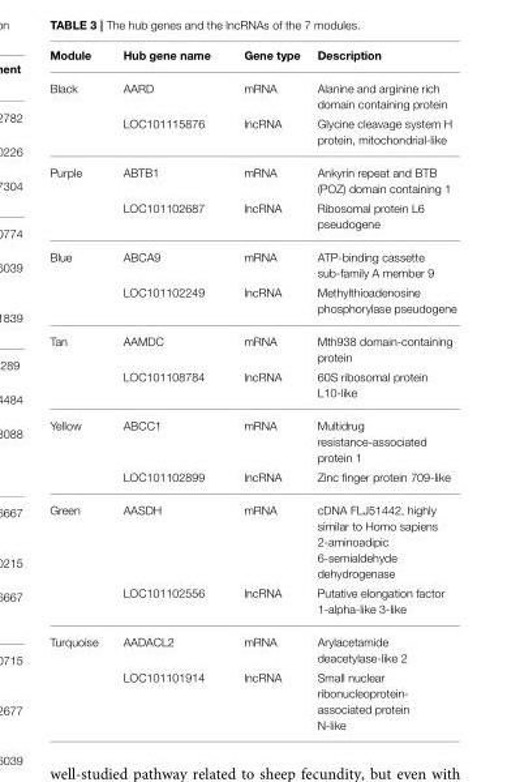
<table><thead><tr><td>Module</td><td>Hub gene name</td><td>Gene type</td><td>Description</td></tr></thead><tbody><tr><td rowspan="2">Black</td><td>AARD</td><td>mRNA</td><td>Alanine and arginine rich domain containing protein</td></tr><tr><td>LOC101115876</td><td>lncRNA</td><td>Glycine cleavage system H protein, mitochondrial-like</td></tr><tr><td rowspan="2">Purple</td><td>ABTB1</td><td>mRNA</td><td>Ankyrin repeat and BTB (POZ) domain containing 1</td></tr><tr><td>LOC101102687</td><td>lncRNA</td><td>Ribosomal protein L6 pseudogene</td></tr><tr><td rowspan="2">Blue</td><td>ABCA9</td><td>mRNA</td><td>ATP-binding cassette sub-family A member 9</td></tr><tr><td>LOC101102249</td><td>lncRNA</td><td>Methylthioadenosine phosphorylase pseudogene</td></tr><tr><td rowspan="2">Tan</td><td>AAMDC</td><td>mRNA</td><td>Mth938 domain-containing protein</td></tr><tr><td>LOC101108784</td><td>lncRNA</td><td>60S ribosomal protein L10-like</td></tr><tr><td rowspan="2">Yellow</td><td>ABCC1</td><td>mRNA</td><td>Multidrug resistance-associated protein 1</td></tr><tr><td>LOC101102899</td><td>lncRNA</td><td>Zinc finger protein 709-like</td></tr><tr><td rowspan="2">Green</td><td>AASDH</td><td>mRNA</td><td>cDNA FLJ51442, highly similar to Homo sapiens 2-aminoadipic 6-semialdehyde dehydrogenase</td></tr><tr><td>LOC101102556</td><td>lncRNA</td><td>Putative elongation factor 1-alpha-like 3-like</td></tr><tr><td rowspan="2">Turquoise</td><td>AADACL2</td><td>mRNA</td><td>Arylacetamide deacetylase-like 2</td></tr><tr><td>LOC101101914</td><td>lncRNA</td><td>Small nuclear ribonucleoprotein- associated protein N-like</td></tr></tbody></table>